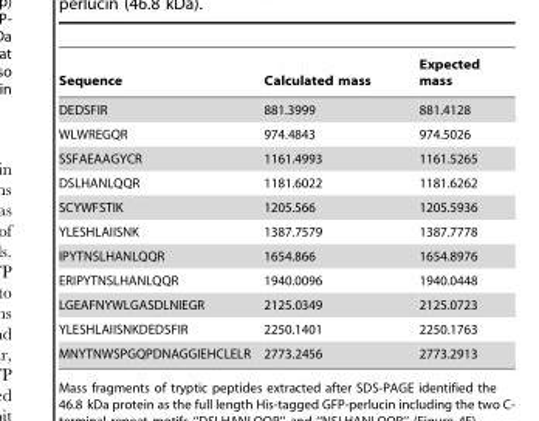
<table><thead><tr><td>Sequence</td><td>Calculated mass</td><td>Expected mass</td></tr></thead><tbody><tr><td>DEDSFIR</td><td>881.3999</td><td>881.4128</td></tr><tr><td>WLWREGQR</td><td>974.4843</td><td>974.5026</td></tr><tr><td>SSFAEAAGYCR</td><td>1161.4993</td><td>1161.5265</td></tr><tr><td>DSLHANLQQR</td><td>1181.6022</td><td>1181.6262</td></tr><tr><td>SCYWFSTIK</td><td>1205.566</td><td>1205.5936</td></tr><tr><td>YLESHLAIISNK</td><td>1387.7579</td><td>1387.7778</td></tr><tr><td>IPYTNSLHANLQQR</td><td>1654.866</td><td>1654.8976</td></tr><tr><td>ERIPYTNSLHANLQQR</td><td>1940.0096</td><td>1940.0448</td></tr><tr><td>LGEAFNYWLGASDLNIEGR</td><td>2125.0349</td><td>2125.0723</td></tr><tr><td>YLESHLAIISNKDEDSFIR</td><td>2250.1401</td><td>2250.1763</td></tr><tr><td>MNYTNWSPGQPDNAGGIEHCLELR</td><td>2773.2456</td><td>2773.2913</td></tr></tbody></table>